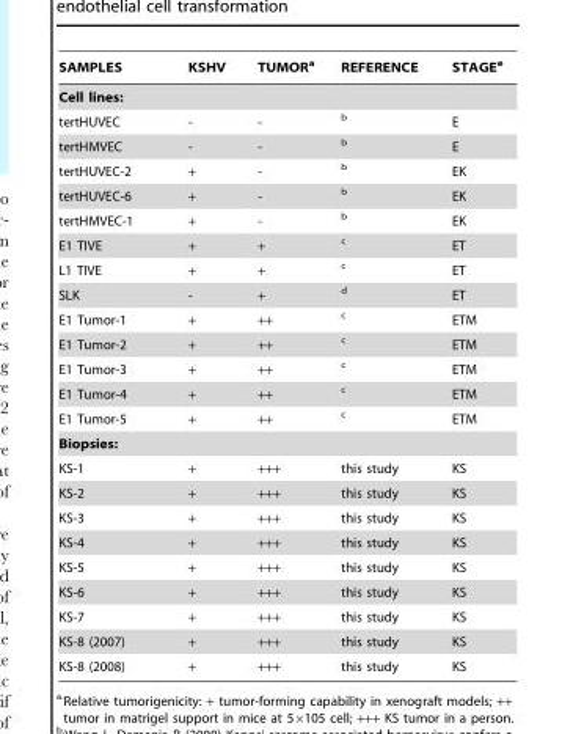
<table><thead><tr><td>SAMPLES</td><td>KSHV</td><td>TUMOR<sup>a</sup></td><td>REFERENCE</td><td>STAGE<sup>e</sup></td></tr></thead><tbody><tr><td colspan="5">Cell lines:</td></tr><tr><td>tertHUVEC</td><td>-</td><td>-</td><td>b</td><td>E</td></tr><tr><td>tertHMVEC</td><td>-</td><td>-</td><td>b</td><td>E</td></tr><tr><td>tertHUVEC-2</td><td>+</td><td>-</td><td>b</td><td>EK</td></tr><tr><td>tertHUVEC-6</td><td>+</td><td>-</td><td>b</td><td>EK</td></tr><tr><td>tertHMVEC-1</td><td>+</td><td>-</td><td>b</td><td>EK</td></tr><tr><td>E1 TIVE</td><td>+</td><td>+</td><td>c</td><td>ET</td></tr><tr><td>L1 TIVE</td><td>+</td><td>+</td><td>c</td><td>ET</td></tr><tr><td>SLK</td><td>-</td><td>+</td><td>d</td><td>ET</td></tr><tr><td>E1 Tumor-1</td><td>+</td><td>++</td><td>c</td><td>ETM</td></tr><tr><td>E1 Tumor-2</td><td>+</td><td>++</td><td>c</td><td>ETM</td></tr><tr><td>E1 Tumor-3</td><td>+</td><td>++</td><td>c</td><td>ETM</td></tr><tr><td>E1 Tumor-4</td><td>+</td><td>++</td><td>c</td><td>ETM</td></tr><tr><td>E1 Tumor-5</td><td>+</td><td>++</td><td>c</td><td>ETM</td></tr><tr><td colspan="5">Biopsies:</td></tr><tr><td>KS-1</td><td>+</td><td>+++</td><td>this study</td><td>KS</td></tr><tr><td>KS-2</td><td>+</td><td>+++</td><td>this study</td><td>KS</td></tr><tr><td>KS-3</td><td>+</td><td>+++</td><td>this study</td><td>KS</td></tr><tr><td>KS-4</td><td>+</td><td>+++</td><td>this study</td><td>KS</td></tr><tr><td>KS-5</td><td>+</td><td>+++</td><td>this study</td><td>KS</td></tr><tr><td>KS-6</td><td>+</td><td>+++</td><td>this study</td><td>KS</td></tr><tr><td>KS-7</td><td>+</td><td>+++</td><td>this study</td><td>KS</td></tr><tr><td>KS-8 (2007)</td><td>+</td><td>+++</td><td>this study</td><td>KS</td></tr><tr><td>KS-8 (2008)</td><td>+</td><td>+++</td><td>this study</td><td>KS</td></tr></tbody></table>